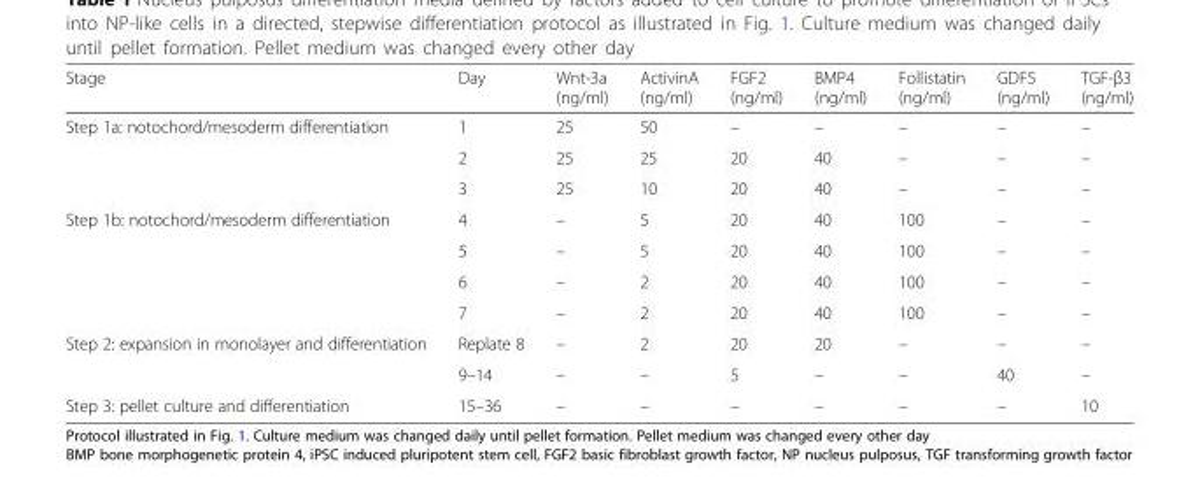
<table><thead><tr><td>Stage</td><td>Day</td><td>Wnt-3a (ng/ml)</td><td>ActivinA (ng/ml)</td><td>FGF2 (ng/ml)</td><td>BMP4 (ng/ml)</td><td>Follistatin (ng/ml)</td><td>GDF5 (ng/ml)</td><td>TGF-β3 (ng/ml)</td></tr></thead><tbody><tr><td rowspan="3">Step 1a: notochord/mesoderm differentiation</td><td>1</td><td>25</td><td>50</td><td>–</td><td>–</td><td>–</td><td>–</td><td>–</td></tr><tr><td>2</td><td>25</td><td>25</td><td>20</td><td>40</td><td>–</td><td>–</td><td>–</td></tr><tr><td>3</td><td>25</td><td>10</td><td>20</td><td>40</td><td>–</td><td>–</td><td>–</td></tr><tr><td rowspan="4">Step 1b: notochord/mesoderm differentiation</td><td>4</td><td>–</td><td>5</td><td>20</td><td>40</td><td>100</td><td>–</td><td>–</td></tr><tr><td>5</td><td>–</td><td>5</td><td>20</td><td>40</td><td>100</td><td>–</td><td>–</td></tr><tr><td>6</td><td>–</td><td>2</td><td>20</td><td>40</td><td>100</td><td>–</td><td>–</td></tr><tr><td>7</td><td>–</td><td>2</td><td>20</td><td>40</td><td>100</td><td>–</td><td>–</td></tr><tr><td rowspan="2">Step 2: expansion in monolayer and differentiation</td><td>Replate 8</td><td>–</td><td>2</td><td>20</td><td>20</td><td>–</td><td>–</td><td>–</td></tr><tr><td>9–14</td><td>–</td><td>–</td><td>5</td><td>–</td><td>–</td><td>40</td><td>–</td></tr><tr><td>Step 3: pellet culture and differentiation</td><td>15–36</td><td>–</td><td>–</td><td>–</td><td>–</td><td>–</td><td>–</td><td>10</td></tr></tbody></table>